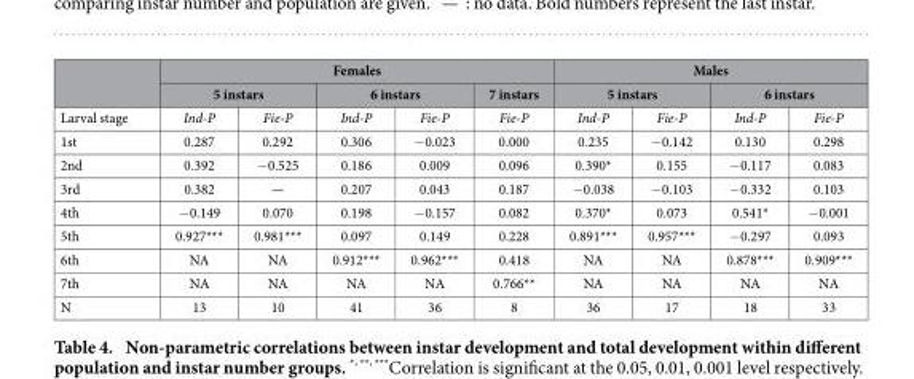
<table><thead><tr><td rowspan="3">Larval stage</td><td colspan="5">Females</td><td colspan="4">Males</td></tr><tr><td colspan="2">5 instars</td><td colspan="2">6 instars</td><td rowspan="2">7 instars Fie-P</td><td colspan="2">5 instars</td><td colspan="2">6 instars</td></tr><tr><td>Ind-P</td><td>Fie-P</td><td>Ind-P</td><td>Fie-P</td><td>Ind-P</td><td>Fie-P</td><td>Ind-P</td><td>Fie-P</td></tr></thead><tbody><tr><td>1st</td><td>0.287</td><td>0.292</td><td>0.306</td><td>− 0.023</td><td>0.000</td><td>0.235</td><td>− 0.142</td><td>0.130</td><td>0.298</td></tr><tr><td>2nd</td><td>0.392</td><td>− 0.525</td><td>0.186</td><td>0.009</td><td>0.096</td><td>0.390*</td><td>0.155</td><td>− 0.117</td><td>0.083</td></tr><tr><td>3rd</td><td>0.382</td><td>—</td><td>0.207</td><td>0.043</td><td>0.187</td><td>− 0.038</td><td>− 0.103</td><td>− 0.332</td><td>0.103</td></tr><tr><td>4th</td><td>− 0.149</td><td>0.070</td><td>0.198</td><td>− 0.157</td><td>0.082</td><td>0.370*</td><td>0.073</td><td>0.541*</td><td>− 0.001</td></tr><tr><td>5th</td><td>0.927***</td><td>0.981***</td><td>0.097</td><td>0.149</td><td>0.228</td><td>0.891***</td><td>0.957***</td><td>− 0.297</td><td>0.093</td></tr><tr><td>6th</td><td>NA</td><td>NA</td><td>0.912***</td><td>0.962***</td><td>0.418</td><td>NA</td><td>NA</td><td>0.878***</td><td>0.909***</td></tr><tr><td>7th</td><td>NA</td><td>NA</td><td>NA</td><td>NA</td><td>0.766**</td><td>NA</td><td>NA</td><td>NA</td><td>NA</td></tr><tr><td>N</td><td>13</td><td>10</td><td>41</td><td>36</td><td>8</td><td>36</td><td>17</td><td>18</td><td>33</td></tr></tbody></table>